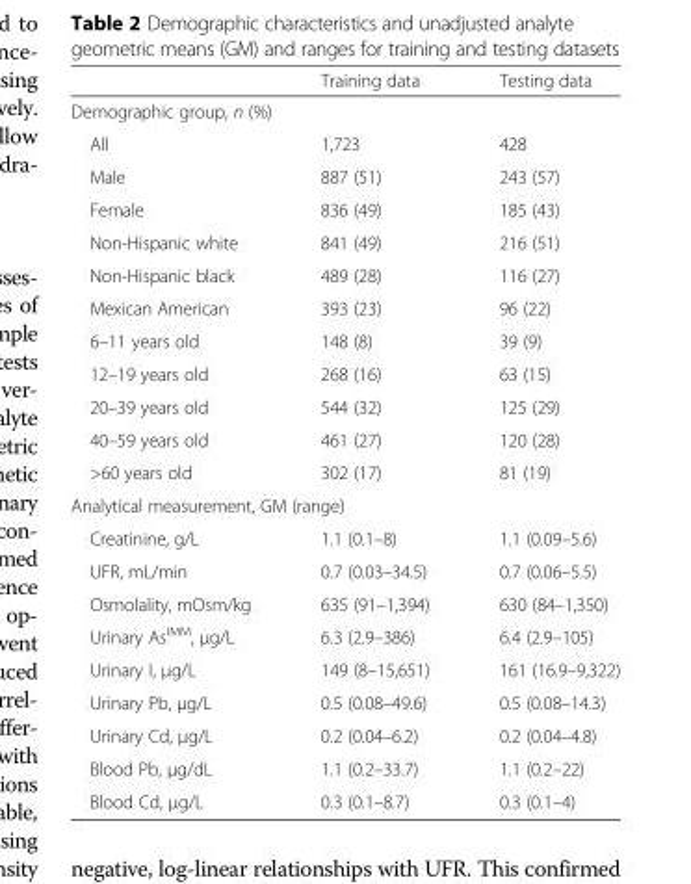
<table><thead><tr><td></td><td>Training data</td><td>Testing data</td></tr></thead><tbody><tr><td colspan="3">Demographic group, n (%)</td></tr><tr><td>All</td><td>1,723</td><td>428</td></tr><tr><td>Male</td><td>887 (51)</td><td>243 (57)</td></tr><tr><td>Female</td><td>836 (49)</td><td>185 (43)</td></tr><tr><td>Non-Hispanic white</td><td>841 (49)</td><td>216 (51)</td></tr><tr><td>Non-Hispanic black</td><td>489 (28)</td><td>116 (27)</td></tr><tr><td>Mexican American</td><td>393 (23)</td><td>96 (22)</td></tr><tr><td>6–11 years old</td><td>148 (8)</td><td>39 (9)</td></tr><tr><td>12–19 years old</td><td>268 (16)</td><td>63 (15)</td></tr><tr><td>20–39 years old</td><td>544 (32)</td><td>125 (29)</td></tr><tr><td>40–59 years old</td><td>461 (27)</td><td>120 (28)</td></tr><tr><td>&gt;60 years old</td><td>302 (17)</td><td>81 (19)</td></tr><tr><td colspan="3">Analytical measurement, GM (range)</td></tr><tr><td>Creatinine, g/L</td><td>1.1 (0.1–8)</td><td>1.1 (0.09–5.6)</td></tr><tr><td>UFR, mL/min</td><td>0.7 (0.03–34.5)</td><td>0.7 (0.06–5.5)</td></tr><tr><td>Osmolality, mOsm/kg</td><td>635 (91–1,394)</td><td>630 (84–1,350)</td></tr><tr><td>Urinary As<sup>IMM</sup>, μg/L</td><td>6.3 (2.9–386)</td><td>6.4 (2.9–105)</td></tr><tr><td>Urinary I, μg/L</td><td>149 (8–15,651)</td><td>161 (16.9–9,322)</td></tr><tr><td>Urinary Pb, μg/L</td><td>0.5 (0.08–49.6)</td><td>0.5 (0.08–14.3)</td></tr><tr><td>Urinary Cd, μg/L</td><td>0.2 (0.04–6.2)</td><td>0.2 (0.04–4.8)</td></tr><tr><td>Blood Pb, μg/dL</td><td>1.1 (0.2–33.7)</td><td>1.1 (0.2–22)</td></tr><tr><td>Blood Cd, μg/L</td><td>0.3 (0.1–8.7)</td><td>0.3 (0.1–4)</td></tr></tbody></table>